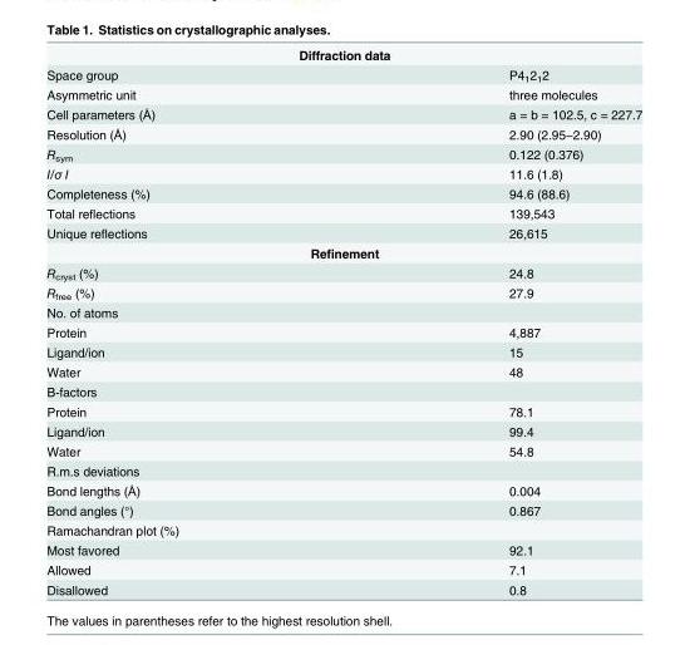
<table><tbody><tr><td colspan="2">Diffraction data</td></tr><tr><td>Space group</td><td>P4<sub>1</sub>2<sub>1</sub>2</td></tr><tr><td>Asymmetric unit</td><td>three molecules</td></tr><tr><td>Cell parameters (Å)</td><td>a = b = 102.5, c = 227.7</td></tr><tr><td>Resolution (Å)</td><td>2.90 (2.95−2.90)</td></tr><tr><td>R<sub>sym</sub></td><td>0.122 (0.376)</td></tr><tr><td>I/σ I</td><td>11.6 (1.8)</td></tr><tr><td>Completeness (%)</td><td>94.6 (88.6)</td></tr><tr><td>Total reflections</td><td>139,543</td></tr><tr><td>Unique reflections</td><td>26,615</td></tr><tr><td colspan="2">Refinement</td></tr><tr><td>R<sub>cryst</sub> (%)</td><td>24.8</td></tr><tr><td>R<sub>free</sub> (%)</td><td>27.9</td></tr><tr><td colspan="2">No. of atoms</td></tr><tr><td>Protein</td><td>4,887</td></tr><tr><td>Ligand/ion</td><td>15</td></tr><tr><td>Water</td><td>48</td></tr><tr><td colspan="2">B-factors</td></tr><tr><td>Protein</td><td>78.1</td></tr><tr><td>Ligand/ion</td><td>99.4</td></tr><tr><td>Water</td><td>54.8</td></tr><tr><td colspan="2">R.m.s deviations</td></tr><tr><td>Bond lengths (Å)</td><td>0.004</td></tr><tr><td>Bond angles (°)</td><td>0.867</td></tr><tr><td colspan="2">Ramachandran plot (%)</td></tr><tr><td>Most favored</td><td>92.1</td></tr><tr><td>Allowed</td><td>7.1</td></tr><tr><td>Disallowed</td><td>0.8</td></tr></tbody></table>